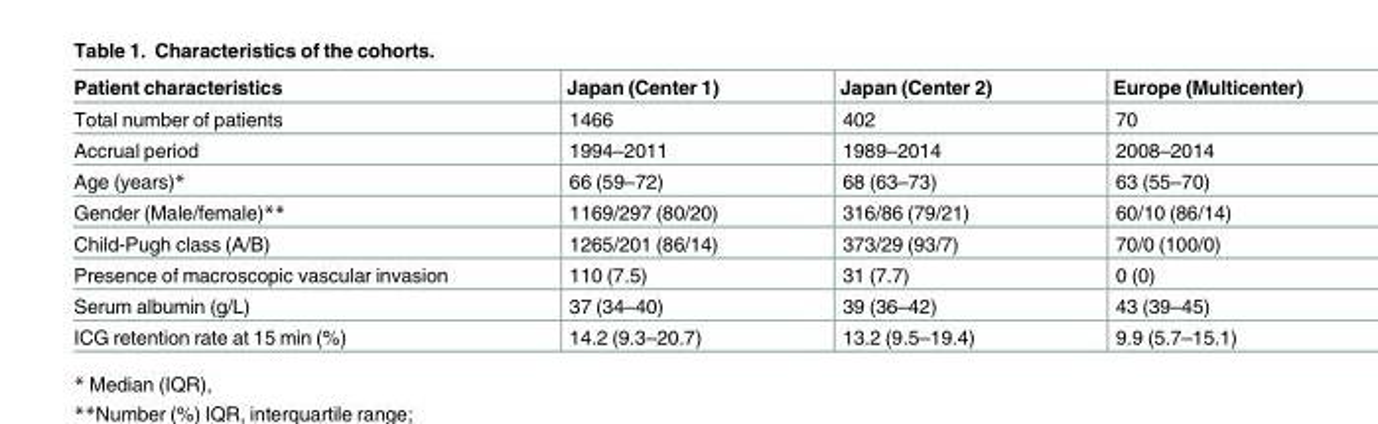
<table><thead><tr><td>Patient characteristics</td><td>Japan (Center 1)</td><td>Japan (Center 2)</td><td>Europe (Multicenter)</td></tr></thead><tbody><tr><td>Total number of patients</td><td>1466</td><td>402</td><td>70</td></tr><tr><td>Accrual period</td><td>1994–2011</td><td>1989–2014</td><td>2008–2014</td></tr><tr><td>Age (years)*</td><td>66 (59–72)</td><td>68 (63–73)</td><td>63 (55–70)</td></tr><tr><td>Gender (Male/female)**</td><td>1169/297 (80/20)</td><td>316/86 (79/21)</td><td>60/10 (86/14)</td></tr><tr><td>Child-Pugh class (A/B)</td><td>1265/201 (86/14)</td><td>373/29 (93/7)</td><td>70/0 (100/0)</td></tr><tr><td>Presence of macroscopic vascular invasion</td><td>110 (7.5)</td><td>31 (7.7)</td><td>0 (0)</td></tr><tr><td>Serum albumin (g/L)</td><td>37 (34–40)</td><td>39 (36–42)</td><td>43 (39–45)</td></tr><tr><td>ICG retention rate at 15 min (%)</td><td>14.2 (9.3–20.7)</td><td>13.2 (9.5–19.4)</td><td>9.9 (5.7–15.1)</td></tr></tbody></table>